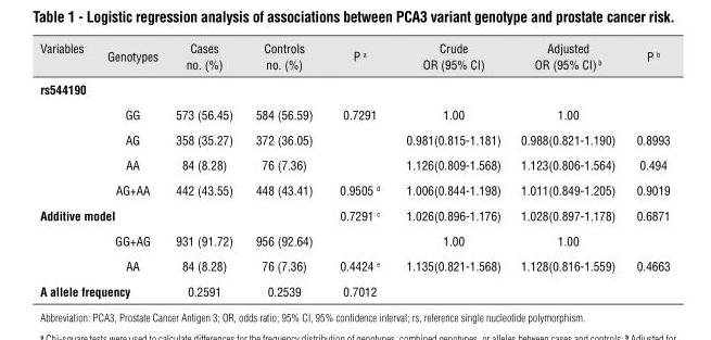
<table><thead><tr><td>Variables</td><td>Genotypes</td><td>Cases no. (%)</td><td>Controls no. (%)</td><td>P <sup>a</sup></td><td>Crude OR (95% CI)</td><td>Adjusted OR (95% CI) <sup>b</sup></td><td>P <sup>b</sup></td></tr></thead><tbody><tr><td colspan="8">rs544190</td></tr><tr><td></td><td>GG</td><td>573 (56.45)</td><td>584 (56.59)</td><td>0.7291</td><td>1.00</td><td>1.00</td><td></td></tr><tr><td></td><td>AG</td><td>358 (35.27)</td><td>372 (36.05)</td><td></td><td>0.981(0.815-1.181)</td><td>0.988(0.821-1.190)</td><td>0.8993</td></tr><tr><td></td><td>AA</td><td>84 (8.28)</td><td>76 (7.36)</td><td></td><td>1.126(0.809-1.568)</td><td>1.123(0.806-1.564)</td><td>0.494</td></tr><tr><td></td><td>AG+AA</td><td>442 (43.55)</td><td>448 (43.41)</td><td>0.9505 <sup>d</sup></td><td>1.006(0.844-1.198)</td><td>1.011(0.849-1.205)</td><td>0.9019</td></tr><tr><td colspan="2">Additive model</td><td></td><td></td><td>0.7291 <sup>c</sup></td><td>1.026(0.896-1.176)</td><td>1.028(0.897-1.178)</td><td>0.6871</td></tr><tr><td></td><td>GG+AG</td><td>931 (91.72)</td><td>956 (92.64)</td><td></td><td>1.00</td><td>1.00</td><td></td></tr><tr><td></td><td>AA</td><td>84 (8.28)</td><td>76 (7.36)</td><td>0.4424 <sup>e</sup></td><td>1.135(0.821-1.568)</td><td>1.128(0.816-1.559)</td><td>0.4663</td></tr><tr><td colspan="2">A allele frequency</td><td>0.2591</td><td>0.2539</td><td>0.7012</td><td></td><td></td><td></td></tr></tbody></table>